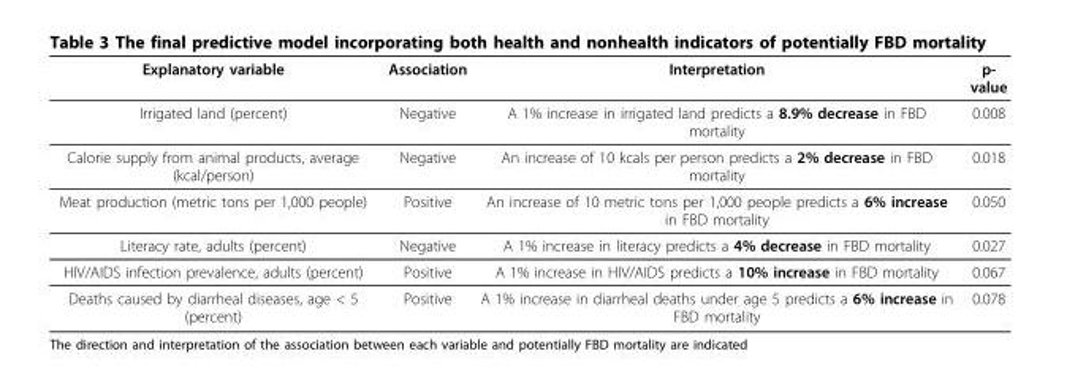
<table><thead><tr><td>Explanatory variable</td><td>Association</td><td>Interpretation</td><td>p- value</td></tr></thead><tbody><tr><td>Irrigated land (percent)</td><td>Negative</td><td>A 1% increase in irrigated land predicts a 8.9% decrease in FBD mortality</td><td>0.008</td></tr><tr><td>Calorie supply from animal products, average (kcal/person)</td><td>Negative</td><td>An increase of 10 kcals per person predicts a 2% decrease in FBD mortality</td><td>0.018</td></tr><tr><td>Meat production (metric tons per 1,000 people)</td><td>Positive</td><td>An increase of 10 metric tons per 1,000 people predicts a 6% increase in FBD mortality</td><td>0.050</td></tr><tr><td>Literacy rate, adults (percent)</td><td>Negative</td><td>A 1% increase in literacy predicts a 4% decrease in FBD mortality</td><td>0.027</td></tr><tr><td>HIV/AIDS infection prevalence, adults (percent)</td><td>Positive</td><td>A 1% increase in HIV/AIDS predicts a 10% increase in FBD mortality</td><td>0.067</td></tr><tr><td>Deaths caused by diarrheal diseases, age &lt; 5 (percent)</td><td>Positive</td><td>A 1% increase in diarrheal deaths under age 5 predicts a 6% increase in FBD mortality</td><td>0.078</td></tr></tbody></table>